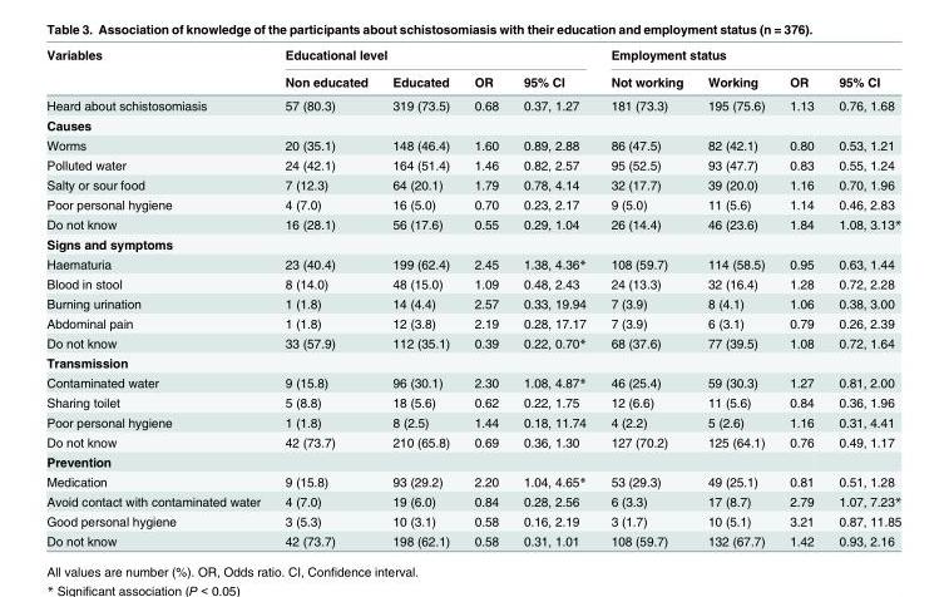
<table><thead><tr><td rowspan="2">Variables</td><td colspan="4">Educational level</td><td colspan="4">Employment status</td></tr><tr><td>Non educated</td><td>Educated</td><td>OR</td><td>95% CI</td><td>Not working</td><td>Working</td><td>OR</td><td>95% CI</td></tr></thead><tbody><tr><td>Heard about schistosomiasis</td><td>57 (80.3)</td><td>319 (73.5)</td><td>0.68</td><td>0.37, 1.27</td><td>181 (73.3)</td><td>195 (75.6)</td><td>1.13</td><td>0.76, 1.68</td></tr><tr><td colspan="9">Causes</td></tr><tr><td>Worms</td><td>20 (35.1)</td><td>148 (46.4)</td><td>1.60</td><td>0.89, 2.88</td><td>86 (47.5)</td><td>82 (42.1)</td><td>0.80</td><td>0.53, 1.21</td></tr><tr><td>Polluted water</td><td>24 (42.1)</td><td>164 (51.4)</td><td>1.46</td><td>0.82, 2.57</td><td>95 (52.5)</td><td>93 (47.7)</td><td>0.83</td><td>0.55, 1.24</td></tr><tr><td>Salty or sour food</td><td>7 (12.3)</td><td>64 (20.1)</td><td>1.79</td><td>0.78, 4.14</td><td>32 (17.7)</td><td>39 (20.0)</td><td>1.16</td><td>0.70, 1.96</td></tr><tr><td>Poor personal hygiene</td><td>4 (7.0)</td><td>16 (5.0)</td><td>0.70</td><td>0.23, 2.17</td><td>9 (5.0)</td><td>11 (5.6)</td><td>1.14</td><td>0.46, 2.83</td></tr><tr><td>Do not know</td><td>16 (28.1)</td><td>56 (17.6)</td><td>0.55</td><td>0.29, 1.04</td><td>26 (14.4)</td><td>46 (23.6)</td><td>1.84</td><td>1.08, 3.13*</td></tr><tr><td colspan="9">Signs and symptoms</td></tr><tr><td>Haematuria</td><td>23 (40.4)</td><td>199 (62.4)</td><td>2.45</td><td>1.38, 4.36*</td><td>108 (59.7)</td><td>114 (58.5)</td><td>0.95</td><td>0.63, 1.44</td></tr><tr><td>Blood in stool</td><td>8 (14.0)</td><td>48 (15.0)</td><td>1.09</td><td>0.48, 2.43</td><td>24 (13.3)</td><td>32 (16.4)</td><td>1.28</td><td>0.72, 2.28</td></tr><tr><td>Burning urination</td><td>1 (1.8)</td><td>14 (4.4)</td><td>2.57</td><td>0.33, 19.94</td><td>7 (3.9)</td><td>8 (4.1)</td><td>1.06</td><td>0.38, 3.00</td></tr><tr><td>Abdominal pain</td><td>1 (1.8)</td><td>12 (3.8)</td><td>2.19</td><td>0.28, 17.17</td><td>7 (3.9)</td><td>6 (3.1)</td><td>0.79</td><td>0.26, 2.39</td></tr><tr><td>Do not know</td><td>33 (57.9)</td><td>112 (35.1)</td><td>0.39</td><td>0.22, 0.70*</td><td>68 (37.6)</td><td>77 (39.5)</td><td>1.08</td><td>0.72, 1.64</td></tr><tr><td colspan="9">Transmission</td></tr><tr><td>Contaminated water</td><td>9 (15.8)</td><td>96 (30.1)</td><td>2.30</td><td>1.08, 4.87*</td><td>46 (25.4)</td><td>59 (30.3)</td><td>1.27</td><td>0.81, 2.00</td></tr><tr><td>Sharing toilet</td><td>5 (8.8)</td><td>18 (5.6)</td><td>0.62</td><td>0.22, 1.75</td><td>12 (6.6)</td><td>11 (5.6)</td><td>0.84</td><td>0.36, 1.96</td></tr><tr><td>Poor personal hygiene</td><td>1 (1.8)</td><td>8 (2.5)</td><td>1.44</td><td>0.18, 11.74</td><td>4 (2.2)</td><td>5 (2.6)</td><td>1.16</td><td>0.31, 4.41</td></tr><tr><td>Do not know</td><td>42 (73.7)</td><td>210 (65.8)</td><td>0.69</td><td>0.36, 1.30</td><td>127 (70.2)</td><td>125 (64.1)</td><td>0.76</td><td>0.49, 1.17</td></tr><tr><td colspan="9">Prevention</td></tr><tr><td>Medication</td><td>9 (15.8)</td><td>93 (29.2)</td><td>2.20</td><td>1.04, 4.65*</td><td>53 (29.3)</td><td>49 (25.1)</td><td>0.81</td><td>0.51, 1.28</td></tr><tr><td>Avoid contact with contaminated water</td><td>4 (7.0)</td><td>19 (6.0)</td><td>0.84</td><td>0.28, 2.56</td><td>6 (3.3)</td><td>17 (8.7)</td><td>2.79</td><td>1.07, 7.23*</td></tr><tr><td>Good personal hygiene</td><td>3 (5.3)</td><td>10 (3.1)</td><td>0.58</td><td>0.16, 2.19</td><td>3 (1.7)</td><td>10 (5.1)</td><td>3.21</td><td>0.87, 11.85</td></tr><tr><td>Do not know</td><td>42 (73.7)</td><td>198 (62.1)</td><td>0.58</td><td>0.31, 1.01</td><td>108 (59.7)</td><td>132 (67.7)</td><td>1.42</td><td>0.93, 2.16</td></tr></tbody></table>